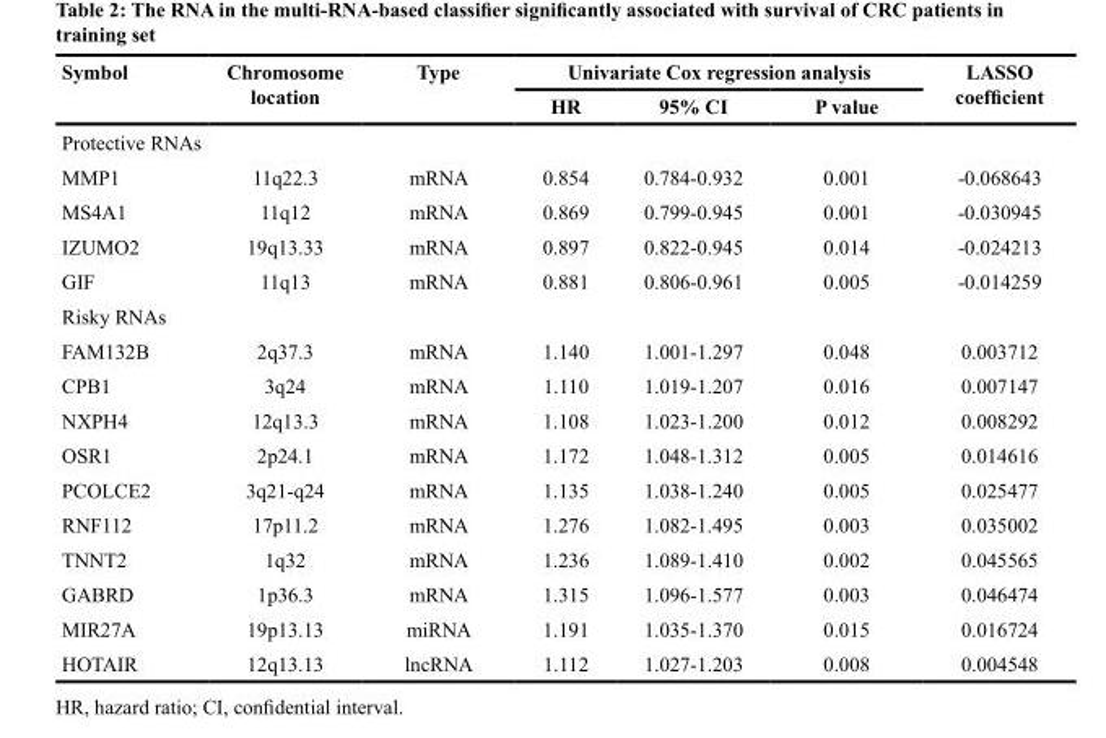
<table><thead><tr><td rowspan="2">Symbol</td><td rowspan="2">Chromosome location</td><td rowspan="2">Type</td><td colspan="3">Univariate Cox regression analysis</td><td rowspan="2">LASSO coefficient</td></tr><tr><td>HR</td><td>95% CI</td><td>P value</td></tr></thead><tbody><tr><td colspan="7">Protective RNAs</td></tr><tr><td>MMP1</td><td>11q22.3</td><td>mRNA</td><td>0.854</td><td>0.784-0.932</td><td>0.001</td><td>-0.068643</td></tr><tr><td>MS4A1</td><td>11q12</td><td>mRNA</td><td>0.869</td><td>0.799-0.945</td><td>0.001</td><td>-0.030945</td></tr><tr><td>IZUMO2</td><td>19q13.33</td><td>mRNA</td><td>0.897</td><td>0.822-0.945</td><td>0.014</td><td>-0.024213</td></tr><tr><td>GIF</td><td>11q13</td><td>mRNA</td><td>0.881</td><td>0.806-0.961</td><td>0.005</td><td>-0.014259</td></tr><tr><td colspan="7">Risky RNAs</td></tr><tr><td>FAM132B</td><td>2q37.3</td><td>mRNA</td><td>1.140</td><td>1.001-1.297</td><td>0.048</td><td>0.003712</td></tr><tr><td>CPB1</td><td>3q24</td><td>mRNA</td><td>1.110</td><td>1.019-1.207</td><td>0.016</td><td>0.007147</td></tr><tr><td>NXPH4</td><td>12q13.3</td><td>mRNA</td><td>1.108</td><td>1.023-1.200</td><td>0.012</td><td>0.008292</td></tr><tr><td>OSR1</td><td>2p24.1</td><td>mRNA</td><td>1.172</td><td>1.048-1.312</td><td>0.005</td><td>0.014616</td></tr><tr><td>PCOLCE2</td><td>3q21-q24</td><td>mRNA</td><td>1.135</td><td>1.038-1.240</td><td>0.005</td><td>0.025477</td></tr><tr><td>RNF112</td><td>17p11.2</td><td>mRNA</td><td>1.276</td><td>1.082-1.495</td><td>0.003</td><td>0.035002</td></tr><tr><td>TNNT2</td><td>1q32</td><td>mRNA</td><td>1.236</td><td>1.089-1.410</td><td>0.002</td><td>0.045565</td></tr><tr><td>GABRD</td><td>1p36.3</td><td>mRNA</td><td>1.315</td><td>1.096-1.577</td><td>0.003</td><td>0.046474</td></tr><tr><td>MIR27A</td><td>19p13.13</td><td>miRNA</td><td>1.191</td><td>1.035-1.370</td><td>0.015</td><td>0.016724</td></tr><tr><td>HOTAIR</td><td>12q13.13</td><td>lncRNA</td><td>1.112</td><td>1.027-1.203</td><td>0.008</td><td>0.004548</td></tr></tbody></table>